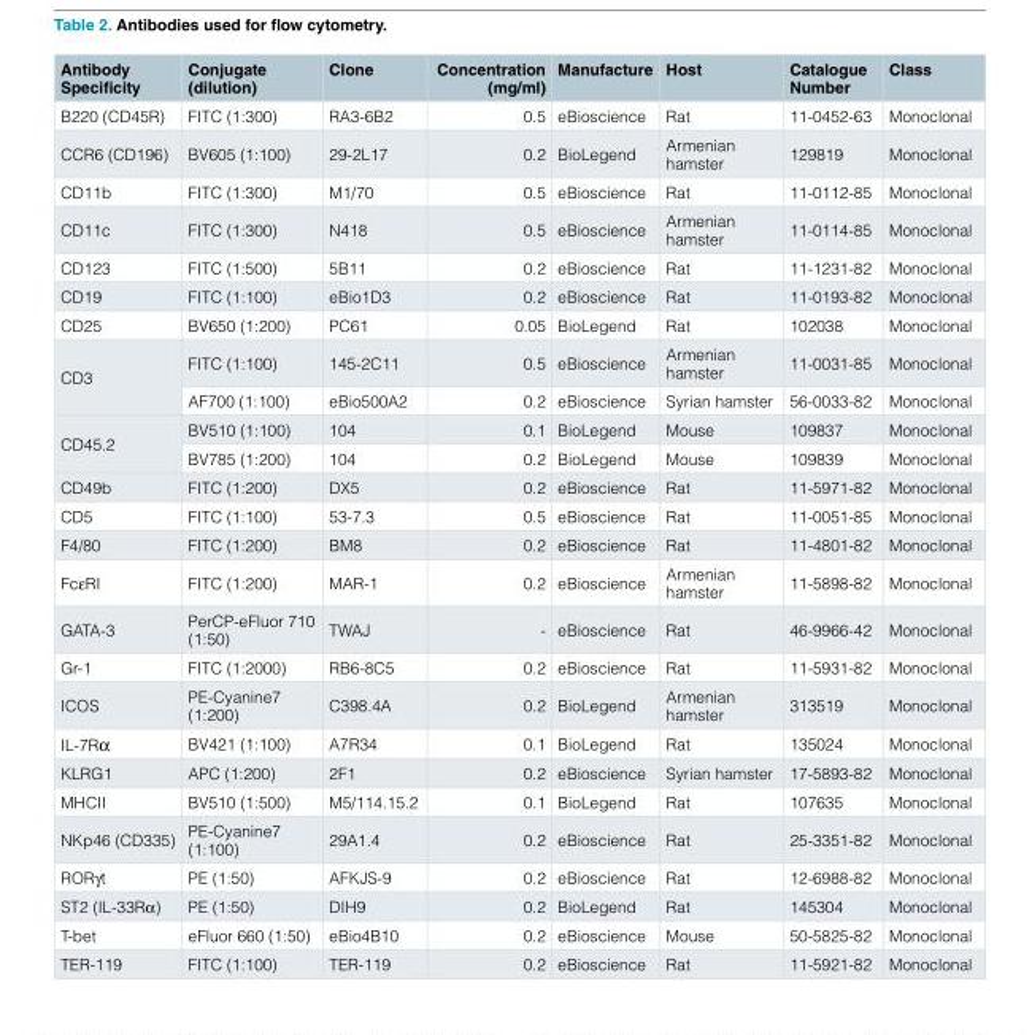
<table><thead><tr><td>Antibody Specificity</td><td>Conjugate (dilution)</td><td>Clone</td><td>Concentration (mg/ml)</td><td>Manufacture</td><td>Host</td><td>Catalogue Number</td><td>Class</td></tr></thead><tbody><tr><td>B220 (CD45R)</td><td>FITC (1:300)</td><td>RA3-6B2</td><td>0.5</td><td>eBioscience</td><td>Rat</td><td>11-0452-63</td><td>Monoclonal</td></tr><tr><td>CCR6 (CD196)</td><td>BV605 (1:100)</td><td>29-2L17</td><td>0.2</td><td>BioLegend</td><td>Armenian hamster</td><td>129819</td><td>Monoclonal</td></tr><tr><td>CD11b</td><td>FITC (1:300)</td><td>M1/70</td><td>0.5</td><td>eBioscience</td><td>Rat</td><td>11-0112-85</td><td>Monoclonal</td></tr><tr><td>CD11c</td><td>FITC (1:300)</td><td>N418</td><td>0.5</td><td>eBioscience</td><td>Armenian hamster</td><td>11-0114-85</td><td>Monoclonal</td></tr><tr><td>CD123</td><td>FITC (1:500)</td><td>5B11</td><td>0.2</td><td>eBioscience</td><td>Rat</td><td>11-1231-82</td><td>Monoclonal</td></tr><tr><td>CD19</td><td>FITC (1:100)</td><td>eBio1D3</td><td>0.2</td><td>eBioscience</td><td>Rat</td><td>11-0193-82</td><td>Monoclonal</td></tr><tr><td>CD25</td><td>BV650 (1:200)</td><td>PC61</td><td>0.05</td><td>BioLegend</td><td>Rat</td><td>102038</td><td>Monoclonal</td></tr><tr><td rowspan="2">CD3</td><td>FITC (1:100)</td><td>145-2C11</td><td>0.5</td><td>eBioscience</td><td>Armenian hamster</td><td>11-0031-85</td><td>Monoclonal</td></tr><tr><td>AF700 (1:100)</td><td>eBio500A2</td><td>0.2</td><td>eBioscience</td><td>Syrian hamster</td><td>56-0033-82</td><td>Monoclonal</td></tr><tr><td rowspan="2">CD45.2</td><td>BV510 (1:100)</td><td>104</td><td>0.1</td><td>BioLegend</td><td>Mouse</td><td>109837</td><td>Monoclonal</td></tr><tr><td>BV785 (1:200)</td><td>104</td><td>0.2</td><td>BioLegend</td><td>Mouse</td><td>109839</td><td>Monoclonal</td></tr><tr><td>CD49b</td><td>FITC (1:200)</td><td>DX5</td><td>0.2</td><td>eBioscience</td><td>Rat</td><td>11-5971-82</td><td>Monoclonal</td></tr><tr><td>CD5</td><td>FITC (1:100)</td><td>53-7.3</td><td>0.5</td><td>eBioscience</td><td>Rat</td><td>11-0051-85</td><td>Monoclonal</td></tr><tr><td>F4/80</td><td>FITC (1:200)</td><td>BM8</td><td>0.2</td><td>eBioscience</td><td>Rat</td><td>11-4801-82</td><td>Monoclonal</td></tr><tr><td>FcεRI</td><td>FITC (1:200)</td><td>MAR-1</td><td>0.2</td><td>eBioscience</td><td>Armenian hamster</td><td>11-5898-82</td><td>Monoclonal</td></tr><tr><td>GATA-3</td><td>PerCP-eFluor 710 (1:50)</td><td>TWAJ</td><td>-</td><td>eBioscience</td><td>Rat</td><td>46-9966-42</td><td>Monoclonal</td></tr><tr><td>Gr-1</td><td>FITC (1:2000)</td><td>RB6-8C5</td><td>0.2</td><td>eBioscience</td><td>Rat</td><td>11-5931-82</td><td>Monoclonal</td></tr><tr><td>ICOS</td><td>PE-Cyanine7 (1:200)</td><td>C398.4A</td><td>0.2</td><td>BioLegend</td><td>Armenian hamster</td><td>313519</td><td>Monoclonal</td></tr><tr><td>IL-7Rα</td><td>BV421 (1:100)</td><td>A7R34</td><td>0.1</td><td>BioLegend</td><td>Rat</td><td>135024</td><td>Monoclonal</td></tr><tr><td>KLRG1</td><td>APC (1:200)</td><td>2F1</td><td>0.2</td><td>eBioscience</td><td>Syrian hamster</td><td>17-5893-82</td><td>Monoclonal</td></tr><tr><td>MHCII</td><td>BV510 (1:500)</td><td>M5/114.15.2</td><td>0.1</td><td>BioLegend</td><td>Rat</td><td>107635</td><td>Monoclonal</td></tr><tr><td>NKp46 (CD335)</td><td>PE-Cyanine7 (1:100)</td><td>29A1.4</td><td>0.2</td><td>eBioscience</td><td>Rat</td><td>25-3351-82</td><td>Monoclonal</td></tr><tr><td>RORγt</td><td>PE (1:50)</td><td>AFKJS-9</td><td>0.2</td><td>eBioscience</td><td>Rat</td><td>12-6988-82</td><td>Monoclonal</td></tr><tr><td>ST2 (IL-33Rα)</td><td>PE (1:50)</td><td>DIH9</td><td>0.2</td><td>BioLegend</td><td>Rat</td><td>145304</td><td>Monoclonal</td></tr><tr><td>T-bet</td><td>eFluor 660 (1:50)</td><td>eBio4B10</td><td>0.2</td><td>eBioscience</td><td>Mouse</td><td>50-5825-82</td><td>Monoclonal</td></tr><tr><td>TER-119</td><td>FITC (1:100)</td><td>TER-119</td><td>0.2</td><td>eBioscience</td><td>Rat</td><td>11-5921-82</td><td>Monoclonal</td></tr></tbody></table>